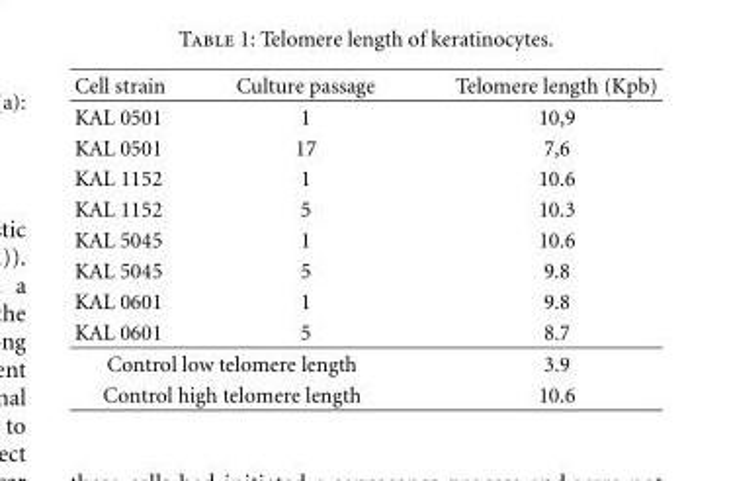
<table><thead><tr><td>Cell strain</td><td>Culture passage</td><td>Telomere length (Kpb)</td></tr></thead><tbody><tr><td>KAL 0501</td><td>1</td><td>10,9</td></tr><tr><td>KAL 0501</td><td>17</td><td>7,6</td></tr><tr><td>KAL 1152</td><td>1</td><td>10.6</td></tr><tr><td>KAL 1152</td><td>5</td><td>10.3</td></tr><tr><td>KAL 5045</td><td>1</td><td>10.6</td></tr><tr><td>KAL 5045</td><td>5</td><td>9.8</td></tr><tr><td>KAL 0601</td><td>1</td><td>9.8</td></tr><tr><td>KAL 0601</td><td>5</td><td>8.7</td></tr><tr><td colspan="2">Control low telomere length</td><td>3.9</td></tr><tr><td colspan="2">Control high telomere length</td><td>10.6</td></tr></tbody></table>